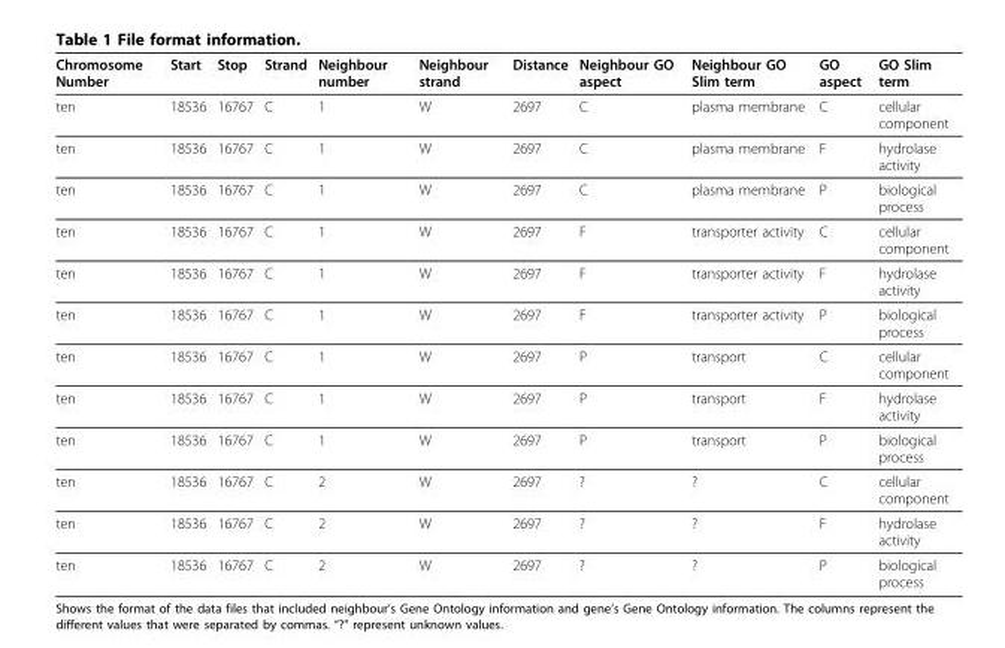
<table><thead><tr><td>Chromosome Number</td><td>Start</td><td>Stop</td><td>Strand</td><td>Neighbour number</td><td>Neighbour strand</td><td>Distance</td><td>Neighbour GO aspect</td><td>Neighbour GO Slim term</td><td>GO aspect</td><td>GO Slim term</td></tr></thead><tbody><tr><td>ten</td><td>18536</td><td>16767</td><td>C</td><td>1</td><td>W</td><td>2697</td><td>C</td><td>plasma membrane</td><td>C</td><td>cellular component</td></tr><tr><td>ten</td><td>18536</td><td>16767</td><td>C</td><td>1</td><td>W</td><td>2697</td><td>C</td><td>plasma membrane</td><td>F</td><td>hydrolase activity</td></tr><tr><td>ten</td><td>18536</td><td>16767</td><td>C</td><td>1</td><td>W</td><td>2697</td><td>C</td><td>plasma membrane</td><td>P</td><td>biological process</td></tr><tr><td>ten</td><td>18536</td><td>16767</td><td>C</td><td>1</td><td>W</td><td>2697</td><td>F</td><td>transporter activity</td><td>C</td><td>cellular component</td></tr><tr><td>ten</td><td>18536</td><td>16767</td><td>C</td><td>1</td><td>W</td><td>2697</td><td>F</td><td>transporter activity</td><td>F</td><td>hydrolase activity</td></tr><tr><td>ten</td><td>18536</td><td>16767</td><td>C</td><td>1</td><td>W</td><td>2697</td><td>F</td><td>transporter activity</td><td>P</td><td>biological process</td></tr><tr><td>ten</td><td>18536</td><td>16767</td><td>C</td><td>1</td><td>W</td><td>2697</td><td>P</td><td>transport</td><td>C</td><td>cellular component</td></tr><tr><td>ten</td><td>18536</td><td>16767</td><td>C</td><td>1</td><td>W</td><td>2697</td><td>P</td><td>transport</td><td>F</td><td>hydrolase activity</td></tr><tr><td>ten</td><td>18536</td><td>16767</td><td>C</td><td>1</td><td>W</td><td>2697</td><td>P</td><td>transport</td><td>P</td><td>biological process</td></tr><tr><td>ten</td><td>18536</td><td>16767</td><td>C</td><td>2</td><td>W</td><td>2697</td><td>?</td><td>?</td><td>C</td><td>cellular component</td></tr><tr><td>ten</td><td>18536</td><td>16767</td><td>C</td><td>2</td><td>W</td><td>2697</td><td>?</td><td>?</td><td>F</td><td>hydrolase activity</td></tr><tr><td>ten</td><td>18536</td><td>16767</td><td>C</td><td>2</td><td>W</td><td>2697</td><td>?</td><td>?</td><td>P</td><td>biological process</td></tr></tbody></table>